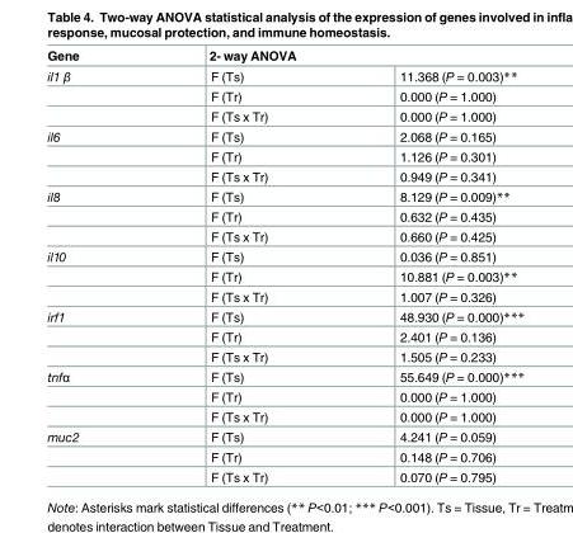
<table><thead><tr><td rowspan="2">Gene il1 β</td><td colspan="2">2- way ANOVA</td></tr><tr><td>F (Ts)</td><td>11.368 (P = 0.003)**</td></tr></thead><tbody><tr><td></td><td>F (Tr)</td><td>0.000 (P = 1.000)</td></tr><tr><td></td><td>F (Ts x Tr)</td><td>0.000 (P = 1.000)</td></tr><tr><td rowspan="3">il6</td><td>F (Ts)</td><td>2.068 (P = 0.165)</td></tr><tr><td>F (Tr)</td><td>1.126 (P = 0.301)</td></tr><tr><td>F (Ts x Tr)</td><td>0.949 (P = 0.341)</td></tr><tr><td rowspan="3">il8</td><td>F (Ts)</td><td>8.129 (P = 0.009)**</td></tr><tr><td>F (Tr)</td><td>0.632 (P = 0.435)</td></tr><tr><td>F (Ts x Tr)</td><td>0.660 (P = 0.425)</td></tr><tr><td rowspan="3">il10</td><td>F (Ts)</td><td>0.036 (P = 0.851)</td></tr><tr><td>F (Tr)</td><td>10.881 (P = 0.003)**</td></tr><tr><td>F (Ts x Tr)</td><td>1.007 (P = 0.326)</td></tr><tr><td rowspan="3">irf1</td><td>F (Ts)</td><td>48.930 (P = 0.000)***</td></tr><tr><td>F (Tr)</td><td>2.401 (P = 0.136)</td></tr><tr><td>F (Ts x Tr)</td><td>1.505 (P = 0.233)</td></tr><tr><td rowspan="3">tnfα</td><td>F (Ts)</td><td>55.649 (P = 0.000)***</td></tr><tr><td>F (Tr)</td><td>0.000 (P = 1.000)</td></tr><tr><td>F (Ts x Tr)</td><td>0.000 (P = 1.000)</td></tr><tr><td rowspan="3">muc2</td><td>F (Ts)</td><td>4.241 (P = 0.059)</td></tr><tr><td>F (Tr)</td><td>0.148 (P = 0.706)</td></tr><tr><td>F (Ts x Tr)</td><td>0.070 (P = 0.795)</td></tr></tbody></table>